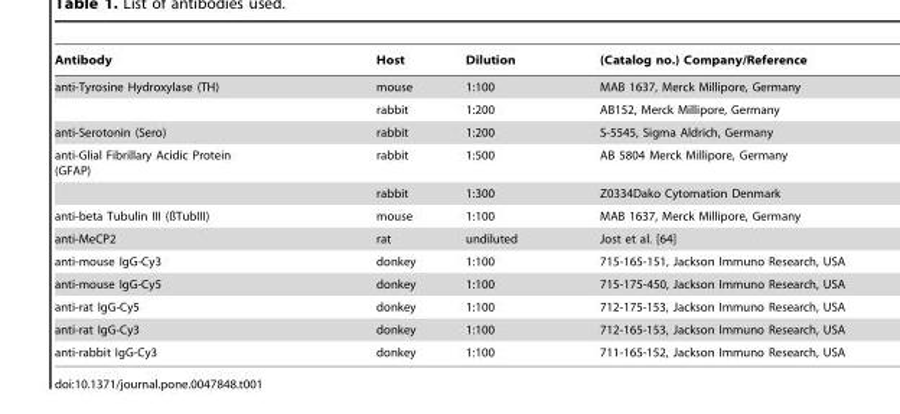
<table><thead><tr><td>Antibody</td><td>Host</td><td>Dilution</td><td>(Catalog no.) Company/Reference</td></tr></thead><tbody><tr><td rowspan="2">anti-Tyrosine Hydroxylase (TH)</td><td>mouse</td><td>1:100</td><td>MAB 1637, Merck Millipore, Germany</td></tr><tr><td>rabbit</td><td>1:200</td><td>AB152, Merck Millipore, Germany</td></tr><tr><td>anti-Serotonin (Sero)</td><td>rabbit</td><td>1:200</td><td>S-5545, Sigma Aldrich, Germany</td></tr><tr><td rowspan="2">anti-Glial Fibrillary Acidic Protein (GFAP)</td><td>rabbit</td><td>1:500</td><td>AB 5804 Merck Millipore, Germany</td></tr><tr><td>rabbit</td><td>1:300</td><td>Z0334Dako Cytomation Denmark</td></tr><tr><td>anti-beta Tubulin III (ßTubIII)</td><td>mouse</td><td>1:100</td><td>MAB 1637, Merck Millipore, Germany</td></tr><tr><td>anti-MeCP2</td><td>rat</td><td>undiluted</td><td>Jost et al. [64]</td></tr><tr><td>anti-mouse IgG-Cy3</td><td>donkey</td><td>1:100</td><td>715-165-151, Jackson Immuno Research, USA</td></tr><tr><td>anti-mouse IgG-Cy5</td><td>donkey</td><td>1:100</td><td>715-175-450, Jackson Immuno Research, USA</td></tr><tr><td>anti-rat IgG-Cy5</td><td>donkey</td><td>1:100</td><td>712-175-153, Jackson Immuno Research, USA</td></tr><tr><td>anti-rat IgG-Cy3</td><td>donkey</td><td>1:100</td><td>712-165-153, Jackson Immuno Research, USA</td></tr><tr><td>anti-rabbit IgG-Cy3</td><td>donkey</td><td>1:100</td><td>711-165-152, Jackson Immuno Research, USA</td></tr></tbody></table>